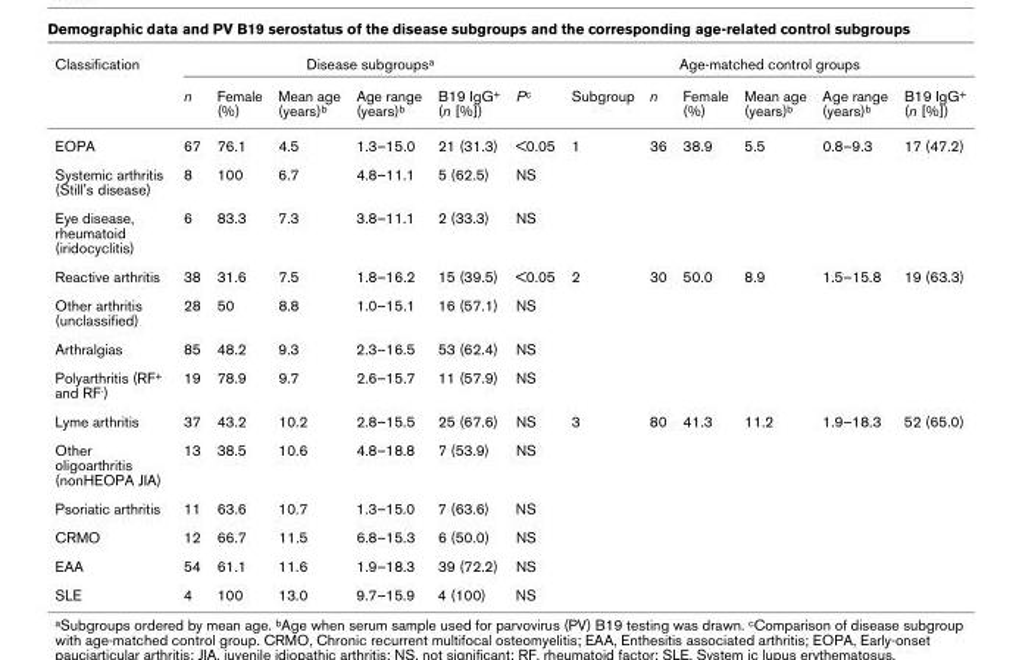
<table><thead><tr><td rowspan="2">Classification</td><td colspan="6">Disease subgroups<sup>a</sup></td><td colspan="6">Age-matched control groups</td></tr><tr><td>n</td><td>Female (%)</td><td>Mean age (years)<sup>b</sup></td><td>Age range (years)<sup>b</sup></td><td>B19 IgG<sup>+</sup> (n [%])</td><td>P<sup>c</sup></td><td>Subgroup</td><td>n</td><td>Female (%)</td><td>Mean age (years)<sup>b</sup></td><td>Age range (years)<sup>b</sup></td><td>B19 IgG<sup>+</sup> (n [%])</td></tr></thead><tbody><tr><td>EOPA</td><td>67</td><td>76.1</td><td>4.5</td><td>1.3–15.0</td><td>21 (31.3)</td><td>&lt;0.05</td><td>1</td><td>36</td><td>38.9</td><td>5.5</td><td>0.8–9.3</td><td>17 (47.2)</td></tr><tr><td>Systemic arthritis (Still&#x27;s disease)</td><td>8</td><td>100</td><td>6.7</td><td>4.8–11.1</td><td>5 (62.5)</td><td>NS</td><td></td><td></td><td></td><td></td><td></td><td></td></tr><tr><td>Eye disease, rheumatoid (iridocyclitis)</td><td>6</td><td>83.3</td><td>7.3</td><td>3.8–11.1</td><td>2 (33.3)</td><td>NS</td><td></td><td></td><td></td><td></td><td></td><td></td></tr><tr><td>Reactive arthritis</td><td>38</td><td>31.6</td><td>7.5</td><td>1.8–16.2</td><td>15 (39.5)</td><td>&lt;0.05</td><td>2</td><td>30</td><td>50.0</td><td>8.9</td><td>1.5–15.8</td><td>19 (63.3)</td></tr><tr><td>Other arthritis (unclassified)</td><td>28</td><td>50</td><td>8.8</td><td>1.0–15.1</td><td>16 (57.1)</td><td>NS</td><td></td><td></td><td></td><td></td><td></td><td></td></tr><tr><td>Arthralgias</td><td>85</td><td>48.2</td><td>9.3</td><td>2.3–16.5</td><td>53 (62.4)</td><td>NS</td><td></td><td></td><td></td><td></td><td></td><td></td></tr><tr><td>Polyarthritis (RF<sup>+</sup> and RF<sup>-</sup>)</td><td>19</td><td>78.9</td><td>9.7</td><td>2.6–15.7</td><td>11 (57.9)</td><td>NS</td><td></td><td></td><td></td><td></td><td></td><td></td></tr><tr><td>Lyme arthritis</td><td>37</td><td>43.2</td><td>10.2</td><td>2.8–15.5</td><td>25 (67.6)</td><td>NS</td><td>3</td><td>80</td><td>41.3</td><td>11.2</td><td>1.9–18.3</td><td>52 (65.0)</td></tr><tr><td>Other oligoarthritis (nonHEOPA JIA)</td><td>13</td><td>38.5</td><td>10.6</td><td>4.8–18.8</td><td>7 (53.9)</td><td>NS</td><td></td><td></td><td></td><td></td><td></td><td></td></tr><tr><td>Psoriatic arthritis</td><td>11</td><td>63.6</td><td>10.7</td><td>1.3–15.0</td><td>7 (63.6)</td><td>NS</td><td></td><td></td><td></td><td></td><td></td><td></td></tr><tr><td>CRMO</td><td>12</td><td>66.7</td><td>11.5</td><td>6.8–15.3</td><td>6 (50.0)</td><td>NS</td><td></td><td></td><td></td><td></td><td></td><td></td></tr><tr><td>EAA</td><td>54</td><td>61.1</td><td>11.6</td><td>1.9–18.3</td><td>39 (72.2)</td><td>NS</td><td></td><td></td><td></td><td></td><td></td><td></td></tr><tr><td>SLE</td><td>4</td><td>100</td><td>13.0</td><td>9.7–15.9</td><td>4 (100)</td><td>NS</td><td></td><td></td><td></td><td></td><td></td><td></td></tr></tbody></table>